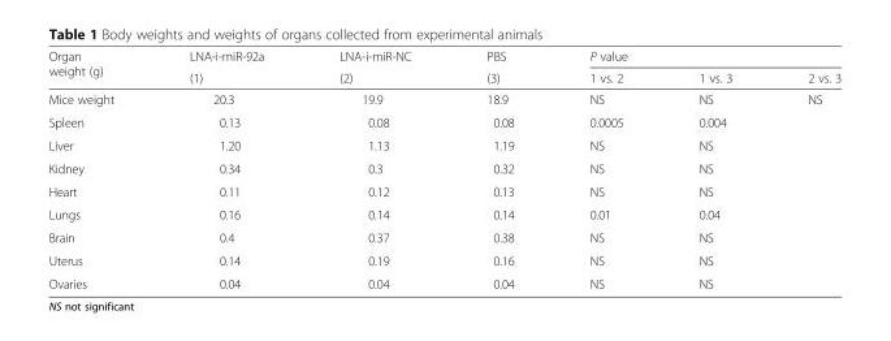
<table><thead><tr><td rowspan="2">Organ weight (g)</td><td rowspan="2">LNA-i-miR-92a (1)</td><td rowspan="2">LNA-i-miR-NC (2)</td><td rowspan="2">PBS (3)</td><td colspan="3">P value</td></tr><tr><td>1 vs. 2</td><td>1 vs. 3</td><td>2 vs. 3</td></tr></thead><tbody><tr><td>Mice weight</td><td>20.3</td><td>19.9</td><td>18.9</td><td>NS</td><td>NS</td><td rowspan="9">NS</td></tr><tr><td>Spleen</td><td>0.13</td><td>0.08</td><td>0.08</td><td>0.0005</td><td>0.004</td></tr><tr><td>Liver</td><td>1.20</td><td>1.13</td><td>1.19</td><td>NS</td><td>NS</td></tr><tr><td>Kidney</td><td>0.34</td><td>0.3</td><td>0.32</td><td>NS</td><td>NS</td></tr><tr><td>Heart</td><td>0.11</td><td>0.12</td><td>0.13</td><td>NS</td><td>NS</td></tr><tr><td>Lungs</td><td>0.16</td><td>0.14</td><td>0.14</td><td>0.01</td><td>0.04</td></tr><tr><td>Brain</td><td>0.4</td><td>0.37</td><td>0.38</td><td>NS</td><td>NS</td></tr><tr><td>Uterus</td><td>0.14</td><td>0.19</td><td>0.16</td><td>NS</td><td>NS</td></tr><tr><td>Ovaries</td><td>0.04</td><td>0.04</td><td>0.04</td><td>NS</td><td>NS</td></tr></tbody></table>